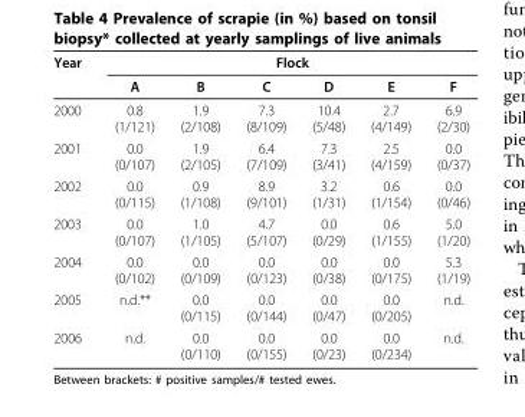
<table><thead><tr><td rowspan="2">Year</td><td colspan="6">Flock</td></tr><tr><td>A</td><td>B</td><td>C</td><td>D</td><td>E</td><td>F</td></tr></thead><tbody><tr><td>2000</td><td>0.8 (1/121)</td><td>1.9 (2/108)</td><td>7.3 (8/109)</td><td>10.4 (5/48)</td><td>2.7 (4/149)</td><td>6.9 (2/30)</td></tr><tr><td>2001</td><td>0.0 (0/107)</td><td>1.9 (2/105)</td><td>6.4 (7/109)</td><td>7.3 (3/41)</td><td>2.5 (4/159)</td><td>0.0 (0/37)</td></tr><tr><td>2002</td><td>0.0 (0/115)</td><td>0.9 (1/108)</td><td>8.9 (9/101)</td><td>3.2 (1/31)</td><td>0.6 (1/154)</td><td>0.0 (0/46)</td></tr><tr><td>2003</td><td>0.0 (0/107)</td><td>1.0 (1/105)</td><td>4.7 (5/107)</td><td>0.0 (0/29)</td><td>0.6 (1/155)</td><td>5.0 (1/20)</td></tr><tr><td>2004</td><td>0.0 (0/102)</td><td>0.0 (0/109)</td><td>0.0 (0/123)</td><td>0.0 (0/38)</td><td>0.0 (0/175)</td><td>5.3 (1/19)</td></tr><tr><td>2005</td><td>n.d.**</td><td>0.0 (0/115)</td><td>0.0 (0/144)</td><td>0.0 (0/47)</td><td>0.0 (0/205)</td><td>n.d.</td></tr><tr><td>2006</td><td>n.d.</td><td>0.0 (0/110)</td><td>0.0 (0/155)</td><td>0.0 (0/23)</td><td>0.0 (0/234)</td><td>n.d.</td></tr></tbody></table>